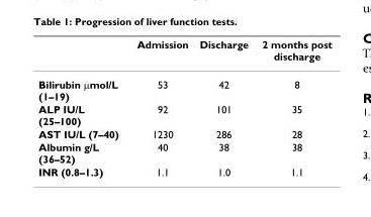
<table><thead><tr><td></td><td>Admission</td><td>Discharge</td><td>2 months post discharge</td></tr></thead><tbody><tr><td>Bilirubin µmol/L (1–19)</td><td>53</td><td>42</td><td>8</td></tr><tr><td>ALP IU/L (25–100)</td><td>92</td><td>101</td><td>35</td></tr><tr><td>AST IU/L (7–40)</td><td>1230</td><td>286</td><td>28</td></tr><tr><td>Albumin g/L (36–52)</td><td>40</td><td>38</td><td>38</td></tr><tr><td>INR (0.8–1.3)</td><td>1.1</td><td>1.0</td><td>1.1</td></tr></tbody></table>